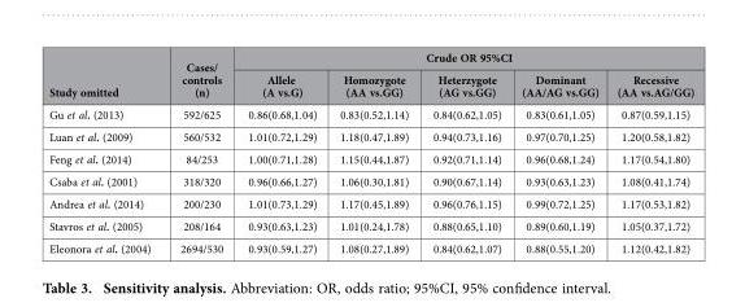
<table><thead><tr><td rowspan="2">Study omitted</td><td rowspan="2">Cases/ controls (n)</td><td colspan="5">Crude OR 95%CI</td></tr><tr><td>Allele (A vs.G)</td><td>Homozygote (AA vs.GG)</td><td>Heterzygote (AG vs.GG)</td><td>Dominant (AA/AG vs.GG)</td><td>Recessive (AA vs.AG/GG)</td></tr></thead><tbody><tr><td>Gu et al. (2013)</td><td>592/625</td><td>0.86(0.68,1.04)</td><td>0.83(0.52,1.14)</td><td>0.84(0.62,1.05)</td><td>0.83(0.61,1.05)</td><td>0.87(0.59,1.15)</td></tr><tr><td>Luan et al. (2009)</td><td>560/532</td><td>1.01(0.72,1.29)</td><td>1.18(0.47,1.89)</td><td>0.94(0.73,1.16)</td><td>0.97(0.70,1.25)</td><td>1.20(0.58,1.82)</td></tr><tr><td>Feng et al. (2014)</td><td>84/253</td><td>1.00(0.71,1.28)</td><td>1.15(0.44,1.87)</td><td>0.92(0.71,1.14)</td><td>0.96(0.68,1.24)</td><td>1.17(0.54,1.80)</td></tr><tr><td>Csaba et al. (2001)</td><td>318/320</td><td>0.96(0.66,1.27)</td><td>1.06(0.30,1.81)</td><td>0.90(0.67,1.14)</td><td>0.93(0.63,1.23)</td><td>1.08(0.41,1.74)</td></tr><tr><td>Andrea et al. (2014)</td><td>200/230</td><td>1.01(0.73,1.29)</td><td>1.17(0.45,1.89)</td><td>0.96(0.76,1.15)</td><td>0.99(0.72,1.25)</td><td>1.17(0.53,1.82)</td></tr><tr><td>Stavros et al. (2005)</td><td>208/164</td><td>0.93(0.63,1.23)</td><td>1.01(0.24,1.78)</td><td>0.88(0.65,1.10)</td><td>0.89(0.60,1.19)</td><td>1.05(0.37,1.72)</td></tr><tr><td>Eleonora et al. (2004)</td><td>2694/530</td><td>0.93(0.59,1.27)</td><td>1.08(0.27,1.89)</td><td>0.84(0.62,1.07)</td><td>0.88(0.55,1.20)</td><td>1.12(0.42,1.82)</td></tr></tbody></table>